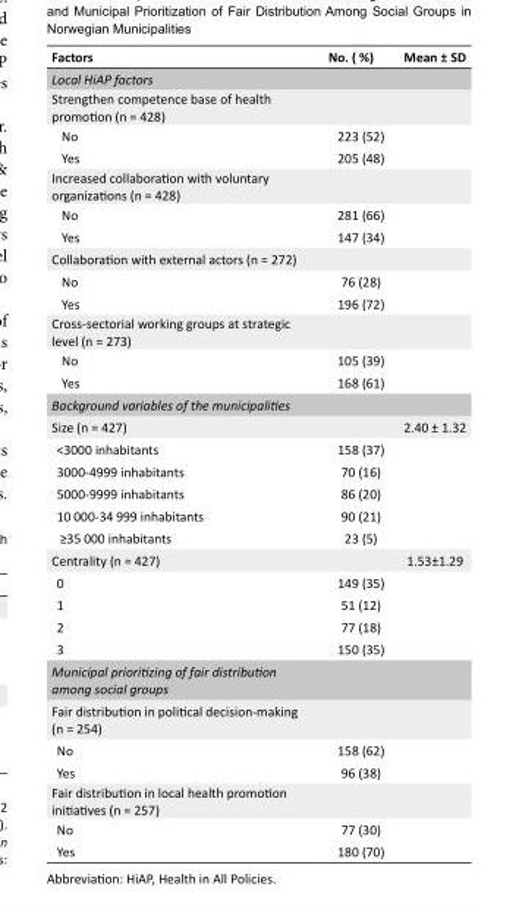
<table><tbody><tr><td>Factors</td><td>No. ( %)</td><td>Mean ± SD</td></tr><tr><td colspan="3">Local HiAP factors</td></tr><tr><td colspan="3">Strengthen competence base of health promotion (n = 428)</td></tr><tr><td>No</td><td>223 (52)</td><td></td></tr><tr><td>Yes</td><td>205 (48)</td><td></td></tr><tr><td colspan="3">Increased collaboration with voluntary organizations (n = 428)</td></tr><tr><td>No</td><td>281 (66)</td><td></td></tr><tr><td>Yes</td><td>147 (34)</td><td></td></tr><tr><td colspan="3">Collaboration with external actors (n = 272)</td></tr><tr><td>No</td><td>76 (28)</td><td></td></tr><tr><td>Yes</td><td>196 (72)</td><td></td></tr><tr><td colspan="3">Cross-sectorial working groups at strategic level (n = 273)</td></tr><tr><td>No</td><td>105 (39)</td><td></td></tr><tr><td>Yes</td><td>168 (61)</td><td></td></tr><tr><td colspan="3">Background variables of the municipalities</td></tr><tr><td>Size (n = 427)</td><td></td><td>2.40 ± 1.32</td></tr><tr><td>&lt;3000 inhabitants</td><td>158 (37)</td><td></td></tr><tr><td>3000-4999 inhabitants</td><td>70 (16)</td><td></td></tr><tr><td>5000-9999 inhabitants</td><td>86 (20)</td><td></td></tr><tr><td>10 000-34 999 inhabitants</td><td>90 (21)</td><td></td></tr><tr><td>≥35 000 inhabitants</td><td>23 (5)</td><td></td></tr><tr><td>Centrality (n = 427)</td><td></td><td>1.53±1.29</td></tr><tr><td>0</td><td>149 (35)</td><td></td></tr><tr><td>1</td><td>51 (12)</td><td></td></tr><tr><td>2</td><td>77 (18)</td><td></td></tr><tr><td>3</td><td>150 (35)</td><td></td></tr><tr><td colspan="3">Municipal prioritizing of fair distribution among social groups</td></tr><tr><td colspan="3">Fair distribution in political decision-making (n = 254)</td></tr><tr><td>No</td><td>158 (62)</td><td></td></tr><tr><td>Yes</td><td>96 (38)</td><td></td></tr><tr><td colspan="3">Fair distribution in local health promotion initiatives (n = 257)</td></tr><tr><td>No</td><td>77 (30)</td><td></td></tr><tr><td>Yes</td><td>180 (70)</td><td></td></tr></tbody></table>